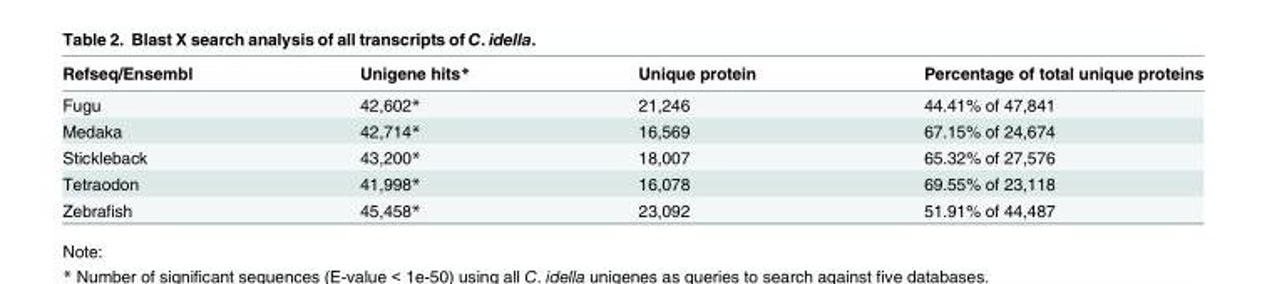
<table><thead><tr><td>Refseq/Ensembl</td><td>Unigene hits*</td><td>Unique protein</td><td>Percentage of total unique proteins</td></tr></thead><tbody><tr><td>Fugu</td><td>42,602*</td><td>21,246</td><td>44.41% of 47,841</td></tr><tr><td>Medaka</td><td>42,714*</td><td>16,569</td><td>67.15% of 24,674</td></tr><tr><td>Stickleback</td><td>43,200*</td><td>18,007</td><td>65.32% of 27,576</td></tr><tr><td>Tetraodon</td><td>41,998*</td><td>16,078</td><td>69.55% of 23,118</td></tr><tr><td>Zebrafish</td><td>45,458*</td><td>23,092</td><td>51.91% of 44,487</td></tr></tbody></table>